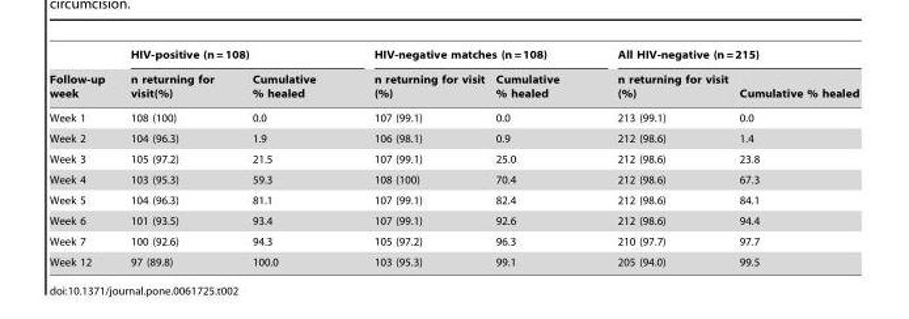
<table><thead><tr><td rowspan="2">Follow-up week</td><td colspan="2">HIV-positive (n = 108)</td><td colspan="2">HIV-negative matches (n = 108)</td><td colspan="2">All HIV-negative (n = 215)</td></tr><tr><td>n returning for visit(%)</td><td>Cumulative % healed</td><td>n returning for visit (%)</td><td>Cumulative % healed</td><td>n returning for visit (%)</td><td>Cumulative % healed</td></tr></thead><tbody><tr><td>Week 1</td><td>108 (100)</td><td>0.0</td><td>107 (99.1)</td><td>0.0</td><td>213 (99.1)</td><td>0.0</td></tr><tr><td>Week 2</td><td>104 (96.3)</td><td>1.9</td><td>106 (98.1)</td><td>0.9</td><td>212 (98.6)</td><td>1.4</td></tr><tr><td>Week 3</td><td>105 (97.2)</td><td>21.5</td><td>107 (99.1)</td><td>25.0</td><td>212 (98.6)</td><td>23.8</td></tr><tr><td>Week 4</td><td>103 (95.3)</td><td>59.3</td><td>108 (100)</td><td>70.4</td><td>212 (98.6)</td><td>67.3</td></tr><tr><td>Week 5</td><td>104 (96.3)</td><td>81.1</td><td>107 (99.1)</td><td>82.4</td><td>212 (98.6)</td><td>84.1</td></tr><tr><td>Week 6</td><td>101 (93.5)</td><td>93.4</td><td>107 (99.1)</td><td>92.6</td><td>212 (98.6)</td><td>94.4</td></tr><tr><td>Week 7</td><td>100 (92.6)</td><td>94.3</td><td>105 (97.2)</td><td>96.3</td><td>210 (97.7)</td><td>97.7</td></tr><tr><td>Week 12</td><td>97 (89.8)</td><td>100.0</td><td>103 (95.3)</td><td>99.1</td><td>205 (94.0)</td><td>99.5</td></tr></tbody></table>